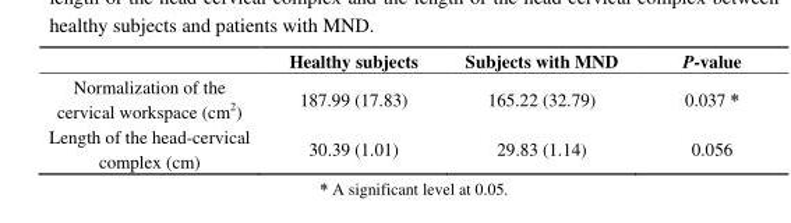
<table><thead><tr><td></td><td>Healthy subjects</td><td>Subjects with MND</td><td>P-value</td></tr></thead><tbody><tr><td>Normalization of the cervical workspace (cm<sup>2</sup>)</td><td>187.99 (17.83)</td><td>165.22 (32.79)</td><td>0.037 *</td></tr><tr><td>Length of the head-cervical complex (cm)</td><td>30.39 (1.01)</td><td>29.83 (1.14)</td><td>0.056</td></tr></tbody></table>